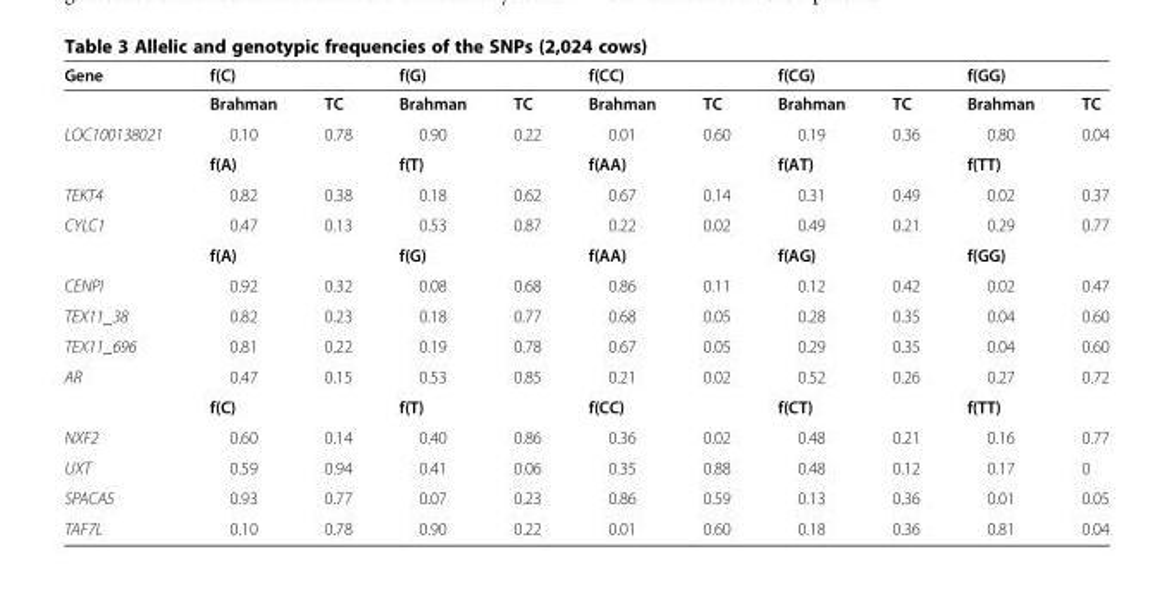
<table><thead><tr><td rowspan="2">Gene</td><td colspan="2">f(C)</td><td colspan="2">f(G)</td><td colspan="2">f(CC)</td><td colspan="2">f(CG)</td><td colspan="2">f(GG)</td></tr><tr><td>Brahman</td><td>TC</td><td>Brahman</td><td>TC</td><td>Brahman</td><td>TC</td><td>Brahman</td><td>TC</td><td>Brahman</td><td>TC</td></tr></thead><tbody><tr><td rowspan="2">LOC100138021</td><td>0.10</td><td>0.78</td><td>0.90</td><td>0.22</td><td>0.01</td><td>0.60</td><td>0.19</td><td>0.36</td><td>0.80</td><td>0.04</td></tr><tr><td colspan="2">f(A)</td><td colspan="2">f(T)</td><td colspan="2">f(AA)</td><td colspan="2">f(AT)</td><td colspan="2">f(TT)</td></tr><tr><td>TEKT4</td><td>0.82</td><td>0.38</td><td>0.18</td><td>0.62</td><td>0.67</td><td>0.14</td><td>0.31</td><td>0.49</td><td>0.02</td><td>0.37</td></tr><tr><td rowspan="2">CYLC1</td><td>0.47</td><td>0.13</td><td>0.53</td><td>0.87</td><td>0.22</td><td>0.02</td><td>0.49</td><td>0.21</td><td>0.29</td><td>0.77</td></tr><tr><td colspan="2">f(A)</td><td colspan="2">f(G)</td><td colspan="2">f(AA)</td><td colspan="2">f(AG)</td><td colspan="2">f(GG)</td></tr><tr><td>CENPI</td><td>0.92</td><td>0.32</td><td>0.08</td><td>0.68</td><td>0.86</td><td>0.11</td><td>0.12</td><td>0.42</td><td>0.02</td><td>0.47</td></tr><tr><td>TEX11_38</td><td>0.82</td><td>0.23</td><td>0.18</td><td>0.77</td><td>0.68</td><td>0.05</td><td>0.28</td><td>0.35</td><td>0.04</td><td>0.60</td></tr><tr><td>TEX11_696</td><td>0.81</td><td>0.22</td><td>0.19</td><td>0.78</td><td>0.67</td><td>0.05</td><td>0.29</td><td>0.35</td><td>0.04</td><td>0.60</td></tr><tr><td rowspan="2">AR</td><td>0.47</td><td>0.15</td><td>0.53</td><td>0.85</td><td>0.21</td><td>0.02</td><td>0.52</td><td>0.26</td><td>0.27</td><td>0.72</td></tr><tr><td colspan="2">f(C)</td><td colspan="2">f(T)</td><td colspan="2">f(CC)</td><td colspan="2">f(CT)</td><td colspan="2">f(TT)</td></tr><tr><td>NXF2</td><td>0.60</td><td>0.14</td><td>0.40</td><td>0.86</td><td>0.36</td><td>0.02</td><td>0.48</td><td>0.21</td><td>0.16</td><td>0.77</td></tr><tr><td>UXT</td><td>0.59</td><td>0.94</td><td>0.41</td><td>0.06</td><td>0.35</td><td>0.88</td><td>0.48</td><td>0.12</td><td>0.17</td><td>0</td></tr><tr><td>SPACA5</td><td>0.93</td><td>0.77</td><td>0.07</td><td>0.23</td><td>0.86</td><td>0.59</td><td>0.13</td><td>0.36</td><td>0.01</td><td>0.05</td></tr><tr><td>TAF7L</td><td>0.10</td><td>0.78</td><td>0.90</td><td>0.22</td><td>0.01</td><td>0.60</td><td>0.18</td><td>0.36</td><td>0.81</td><td>0.04</td></tr></tbody></table>